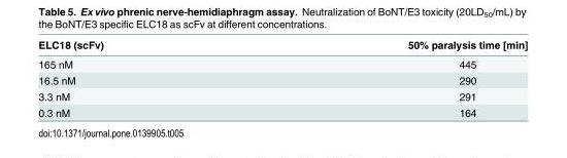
<table><thead><tr><td>ELC18 (scFv)</td><td>50% paralysis time [min]</td></tr></thead><tbody><tr><td>165 nM</td><td>445</td></tr><tr><td>16.5 nM</td><td>290</td></tr><tr><td>3.3 nM</td><td>291</td></tr><tr><td>0.3 nM</td><td>164</td></tr></tbody></table>